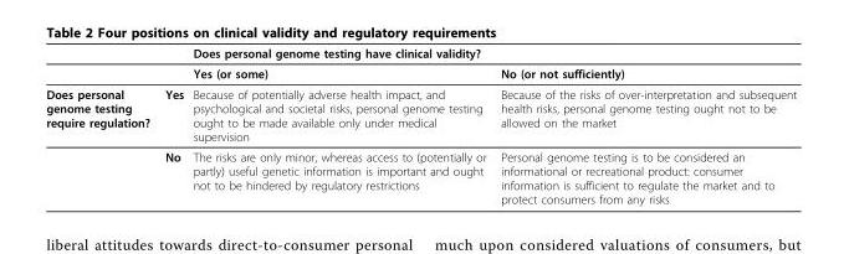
<table><thead><tr><td></td><td></td><td colspan="2">Does personal genome testing have clinical validity?</td></tr><tr><td colspan="2"></td><td>Yes (or some)</td><td>No (or not sufficiently)</td></tr></thead><tbody><tr><td rowspan="2">Does personal genome testing require regulation?</td><td>Yes</td><td>Because of potentially adverse health impact, and psychological and societal risks, personal genome testing ought to be made available only under medical supervision</td><td>Because of the risks of over-interpretation and subsequent health risks, personal genome testing ought not to be allowed on the market</td></tr><tr><td>No</td><td>The risks are only minor, whereas access to (potentially or partly) useful genetic information is important and ought not to be hindered by regulatory restrictions</td><td>Personal genome testing is to be considered an informational or recreational product: consumer information is sufficient to regulate the market and to protect consumers from any risks</td></tr></tbody></table>